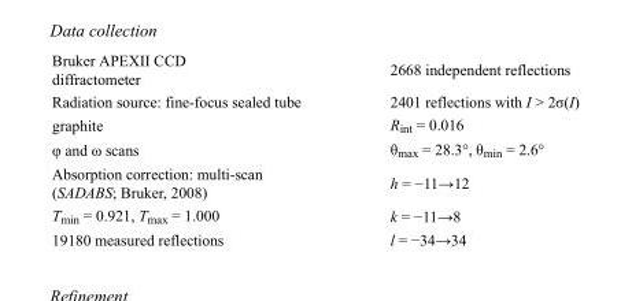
<table><tbody><tr><td>Bruker APEXII CCD diffractometer</td><td>2668 independent reflections</td></tr><tr><td>Radiation source: fine-focus sealed tube</td><td>2401 reflections with I &gt; 2σ(I)</td></tr><tr><td>graphite</td><td>R<sub>int</sub> = 0.016</td></tr><tr><td>φ and ω scans</td><td>θ<sub>max</sub> = 28.3°, θ<sub>min</sub> = 2.6°</td></tr><tr><td>Absorption correction: multi-scan (SADABS; Bruker, 2008)</td><td>h = −11→12</td></tr><tr><td>T<sub>min</sub> = 0.921, T<sub>max</sub> = 1.000</td><td>k = −11→8</td></tr><tr><td>19180 measured reflections</td><td>l = −34→34</td></tr></tbody></table>